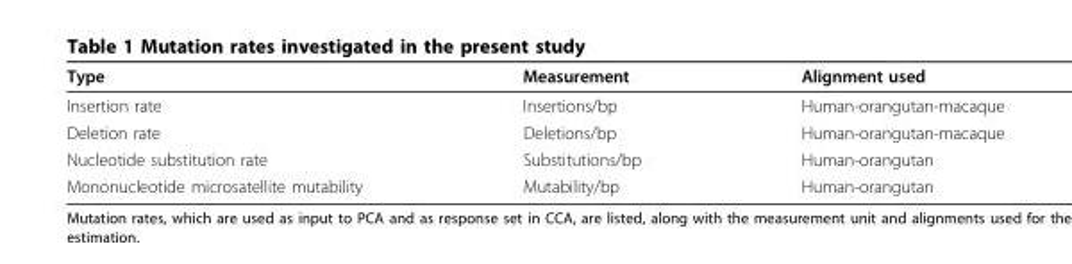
<table><thead><tr><td>Type</td><td>Measurement</td><td>Alignment used</td></tr></thead><tbody><tr><td>Insertion rate</td><td>Insertions/bp</td><td>Human-orangutan-macaque</td></tr><tr><td>Deletion rate</td><td>Deletions/bp</td><td>Human-orangutan-macaque</td></tr><tr><td>Nucleotide substitution rate</td><td>Substitutions/bp</td><td>Human-orangutan</td></tr><tr><td>Mononucleotide microsatellite mutability</td><td>Mutability/bp</td><td>Human-orangutan</td></tr></tbody></table>